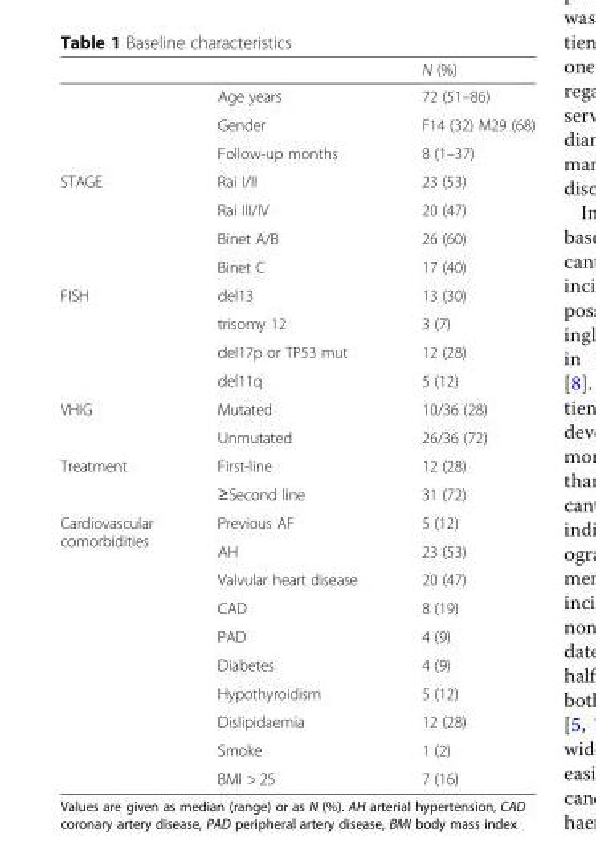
<table><thead><tr><td></td><td></td><td>N (%)</td></tr></thead><tbody><tr><td rowspan="3"></td><td>Age years</td><td>72 (51–86)</td></tr><tr><td>Gender</td><td>F14 (32) M29 (68)</td></tr><tr><td>Follow-up months</td><td>8 (1–37)</td></tr><tr><td rowspan="4">STAGE</td><td>Rai I/II</td><td>23 (53)</td></tr><tr><td>Rai III/IV</td><td>20 (47)</td></tr><tr><td>Binet A/B</td><td>26 (60)</td></tr><tr><td>Binet C</td><td>17 (40)</td></tr><tr><td rowspan="4">FISH</td><td>del13</td><td>13 (30)</td></tr><tr><td>trisomy 12</td><td>3 (7)</td></tr><tr><td>del17p or TP53 mut</td><td>12 (28)</td></tr><tr><td>del11q</td><td>5 (12)</td></tr><tr><td rowspan="2">VHIG</td><td>Mutated</td><td>10/36 (28)</td></tr><tr><td>Unmutated</td><td>26/36 (72)</td></tr><tr><td rowspan="2">Treatment</td><td>First-line</td><td>12 (28)</td></tr><tr><td>≥Second line</td><td>31 (72)</td></tr><tr><td rowspan="10">Cardiovascular comorbidities</td><td>Previous AF</td><td>5 (12)</td></tr><tr><td>AH</td><td>23 (53)</td></tr><tr><td>Valvular heart disease</td><td>20 (47)</td></tr><tr><td>CAD</td><td>8 (19)</td></tr><tr><td>PAD</td><td>4 (9)</td></tr><tr><td>Diabetes</td><td>4 (9)</td></tr><tr><td>Hypothyroidism</td><td>5 (12)</td></tr><tr><td>Dislipidaemia</td><td>12 (28)</td></tr><tr><td>Smoke</td><td>1 (2)</td></tr><tr><td>BMI &gt; 25</td><td>7 (16)</td></tr></tbody></table>